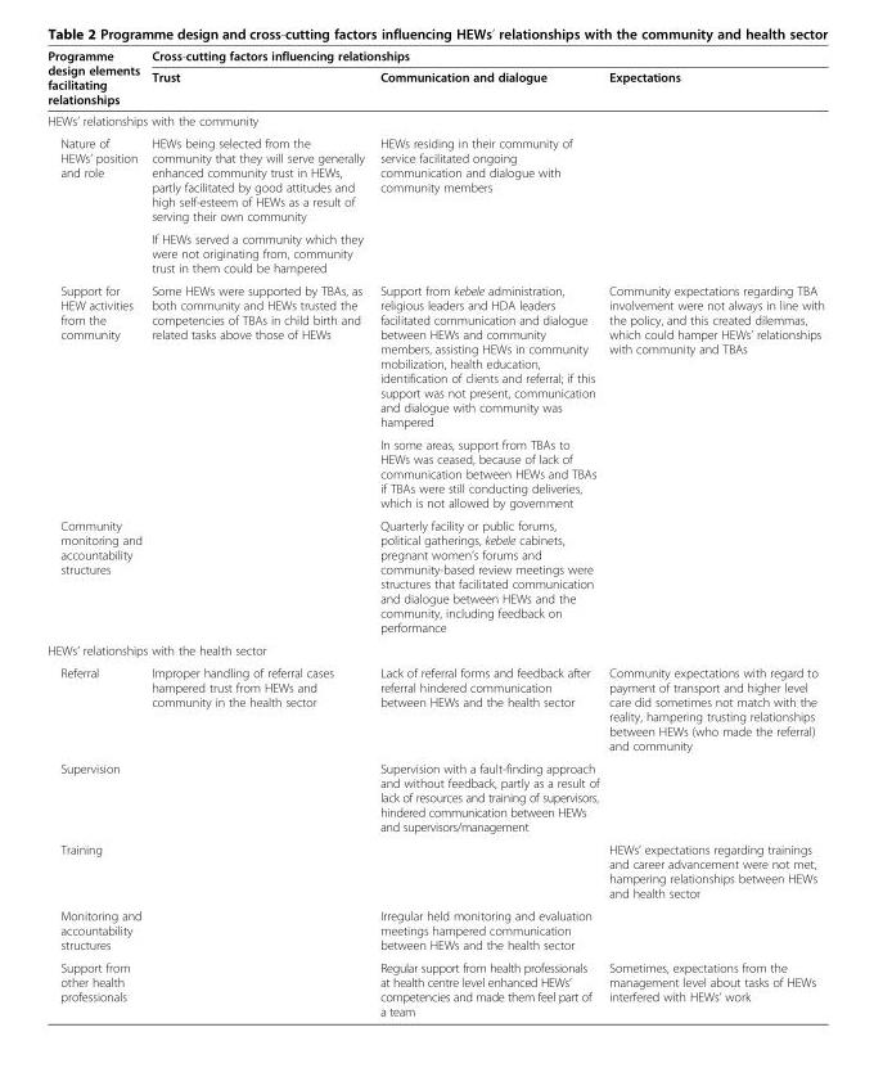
<table><thead><tr><td rowspan="2">Programme design elements facilitating relationships</td><td colspan="3">Cross-cutting factors influencing relationships</td></tr><tr><td>Trust</td><td>Communication and dialogue</td><td>Expectations</td></tr></thead><tbody><tr><td colspan="4">HEWs’ relationships with the community</td></tr><tr><td rowspan="2">Nature of HEWs’ position and role</td><td>HEWs being selected from the community that they will serve generally enhanced community trust in HEWs, partly facilitated by good attitudes and high self-esteem of HEWs as a result of serving their own community</td><td rowspan="2">HEWs residing in their community of service facilitated ongoing communication and dialogue with community members</td><td rowspan="2"></td></tr><tr><td>If HEWs served a community which they were not originating from, community trust in them could be hampered</td></tr><tr><td rowspan="2">Support for HEW activities from the community</td><td rowspan="2">Some HEWs were supported by TBAs, as both community and HEWs trusted the competencies of TBAs in child birth and related tasks above those of HEWs</td><td>Support from kebele administration, religious leaders and HDA leaders facilitated communication and dialogue between HEWs and community members, assisting HEWs in community mobilization, health education, identification of clients and referral; if this support was not present, communication and dialogue with community was hampered</td><td rowspan="2">Community expectations regarding TBA involvement were not always in line with the policy, and this created dilemmas, which could hamper HEWs’ relationships with community and TBAs</td></tr><tr><td>In some areas, support from TBAs to HEWs was ceased, because of lack of communication between HEWs and TBAs if TBAs were still conducting deliveries, which is not allowed by government</td></tr><tr><td>Community monitoring and accountability structures</td><td></td><td>Quarterly facility or public forums, political gatherings, kebele cabinets, pregnant women’s forums and community-based review meetings were structures that facilitated communication and dialogue between HEWs and the community, including feedback on performance</td><td></td></tr><tr><td colspan="4">HEWs’ relationships with the health sector</td></tr><tr><td>Referral</td><td>Improper handling of referral cases hampered trust from HEWs and community in the health sector</td><td>Lack of referral forms and feedback after referral hindered communication between HEWs and the health sector</td><td>Community expectations with regard to payment of transport and higher level care did sometimes not match with the reality, hampering trusting relationships between HEWs (who made the referral) and community</td></tr><tr><td>Supervision</td><td></td><td>Supervision with a fault-finding approach and without feedback, partly as a result of lack of resources and training of supervisors, hindered communication between HEWs and supervisors/management</td><td></td></tr><tr><td>Training</td><td></td><td></td><td>HEWs’ expectations regarding trainings and career advancement were not met, hampering relationships between HEWs and health sector</td></tr><tr><td>Monitoring and accountability structures</td><td></td><td>Irregular held monitoring and evaluation meetings hampered communication between HEWs and the health sector</td><td></td></tr><tr><td>Support from other health professionals</td><td></td><td>Regular support from health professionals at health centre level enhanced HEWs’ competencies and made them feel part of a team</td><td>Sometimes, expectations from the management level about tasks of HEWs interfered with HEWs’ work</td></tr></tbody></table>